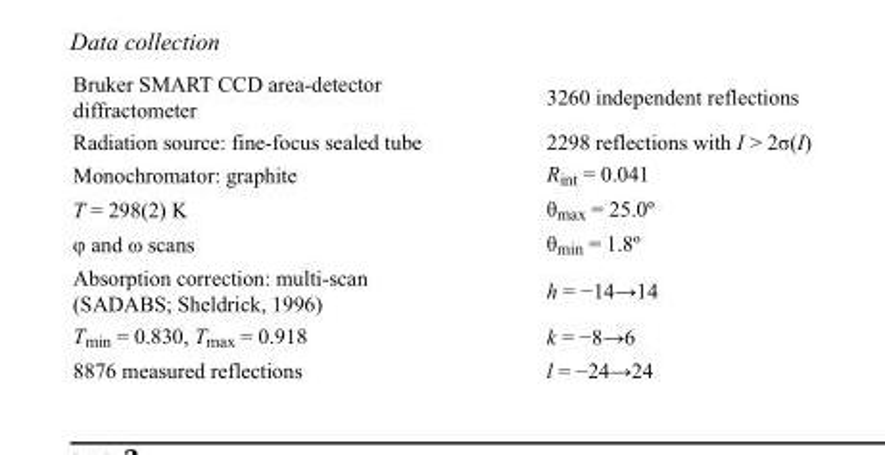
<table><tbody><tr><td>Bruker SMART CCD area-detector diffractometer</td><td>3260 independent reflections</td></tr><tr><td>Radiation source: fine-focus sealed tube</td><td>2298 reflections with I &gt; 2σ(I)</td></tr><tr><td>Monochromator: graphite</td><td>R<sub>int</sub> = 0.041</td></tr><tr><td>T = 298(2) K</td><td>θ<sub>max</sub> = 25.0º</td></tr><tr><td>φ and ω scans</td><td>θ<sub>min</sub> = 1.8º</td></tr><tr><td>Absorption correction: multi-scan (SADABS; Sheldrick, 1996)</td><td>h = −14→14</td></tr><tr><td>T<sub>min</sub> = 0.830, T<sub>max</sub> = 0.918</td><td>k = −8→6</td></tr><tr><td>8876 measured reflections</td><td>l = −24→24</td></tr></tbody></table>